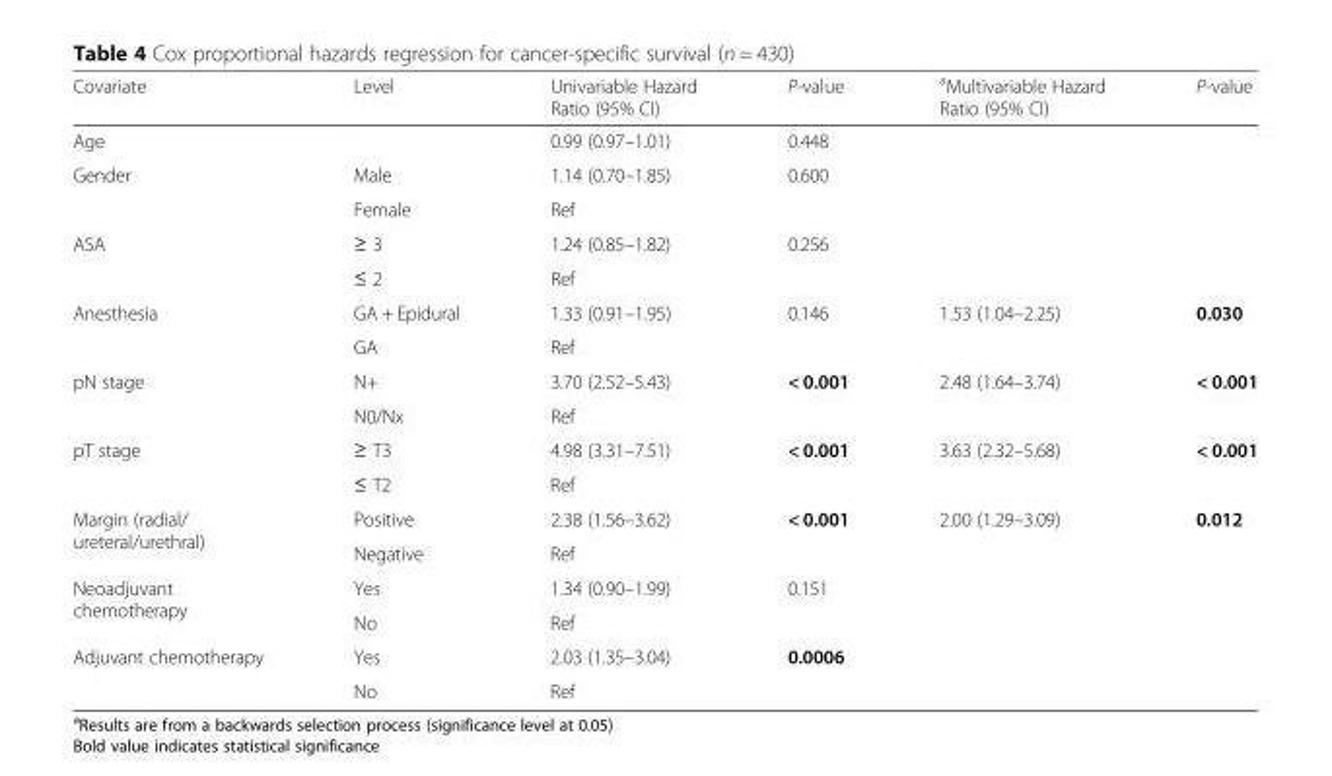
<table><thead><tr><td>Covariate</td><td>Level</td><td>Univariable Hazard Ratio (95% CI)</td><td>P-value</td><td><sup>a</sup>Multivariable Hazard Ratio (95% CI)</td><td>P-value</td></tr></thead><tbody><tr><td>Age</td><td></td><td>0.99 (0.97–1.01)</td><td>0.448</td><td></td><td></td></tr><tr><td rowspan="2">Gender</td><td>Male</td><td>1.14 (0.70–1.85)</td><td>0.600</td><td></td><td></td></tr><tr><td>Female</td><td>Ref</td><td></td><td></td><td></td></tr><tr><td rowspan="2">ASA</td><td>≥ 3</td><td>1.24 (0.85–1.82)</td><td>0.256</td><td></td><td></td></tr><tr><td>≤ 2</td><td>Ref</td><td></td><td></td><td></td></tr><tr><td rowspan="2">Anesthesia</td><td>GA + Epidural</td><td>1.33 (0.91–1.95)</td><td>0.146</td><td>1.53 (1.04–2.25)</td><td>0.030</td></tr><tr><td>GA</td><td>Ref</td><td></td><td></td><td></td></tr><tr><td rowspan="2">pN stage</td><td>N+</td><td>3.70 (2.52–5.43)</td><td>&lt; 0.001</td><td>2.48 (1.64–3.74)</td><td>&lt; 0.001</td></tr><tr><td>N0/Nx</td><td>Ref</td><td></td><td></td><td></td></tr><tr><td rowspan="2">pT stage</td><td>≥ T3</td><td>4.98 (3.31–7.51)</td><td>&lt; 0.001</td><td>3.63 (2.32–5.68)</td><td>&lt; 0.001</td></tr><tr><td>≤ T2</td><td>Ref</td><td></td><td></td><td></td></tr><tr><td rowspan="2">Margin (radial/ ureteral/urethral)</td><td>Positive</td><td>2.38 (1.56–3.62)</td><td>&lt; 0.001</td><td>2.00 (1.29–3.09)</td><td>0.012</td></tr><tr><td>Negative</td><td>Ref</td><td></td><td></td><td></td></tr><tr><td rowspan="2">Neoadjuvant chemotherapy</td><td>Yes</td><td>1.34 (0.90–1.99)</td><td>0.151</td><td></td><td></td></tr><tr><td>No</td><td>Ref</td><td></td><td></td><td></td></tr><tr><td rowspan="2">Adjuvant chemotherapy</td><td>Yes</td><td>2.03 (1.35–3.04)</td><td>0.0006</td><td></td><td></td></tr><tr><td>No</td><td>Ref</td><td></td><td></td><td></td></tr></tbody></table>